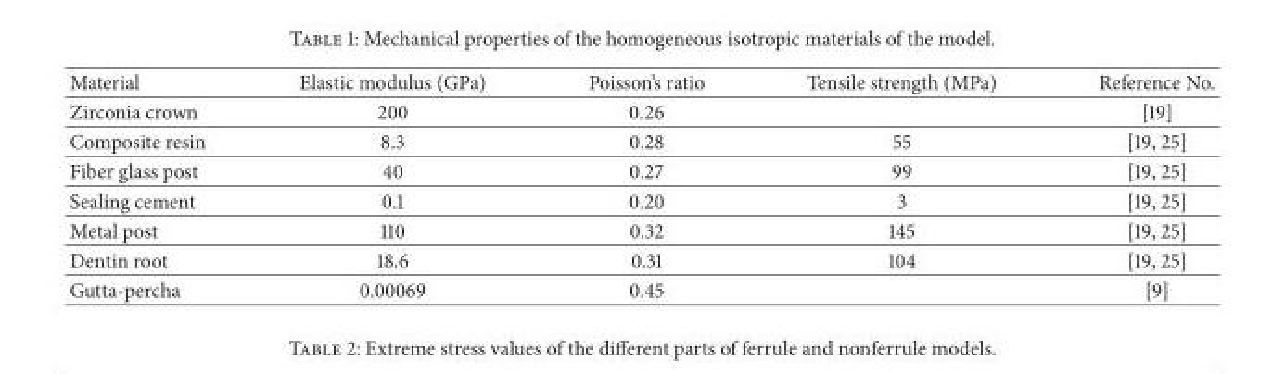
<table><thead><tr><td>Material</td><td>Elastic modulus (GPa)</td><td>Poisson’s ratio</td><td>Tensile strength (MPa)</td><td>Reference No.</td></tr></thead><tbody><tr><td>Zirconia crown</td><td>200</td><td>0.26</td><td></td><td>[19]</td></tr><tr><td>Composite resin</td><td>8.3</td><td>0.28</td><td>55</td><td>[19, 25]</td></tr><tr><td>Fiber glass post</td><td>40</td><td>0.27</td><td>99</td><td>[19, 25]</td></tr><tr><td>Sealing cement</td><td>0.1</td><td>0.20</td><td>3</td><td>[19, 25]</td></tr><tr><td>Metal post</td><td>110</td><td>0.32</td><td>145</td><td>[19, 25]</td></tr><tr><td>Dentin root</td><td>18.6</td><td>0.31</td><td>104</td><td>[19, 25]</td></tr><tr><td>Gutta-percha</td><td>0.00069</td><td>0.45</td><td></td><td>[9]</td></tr></tbody></table>